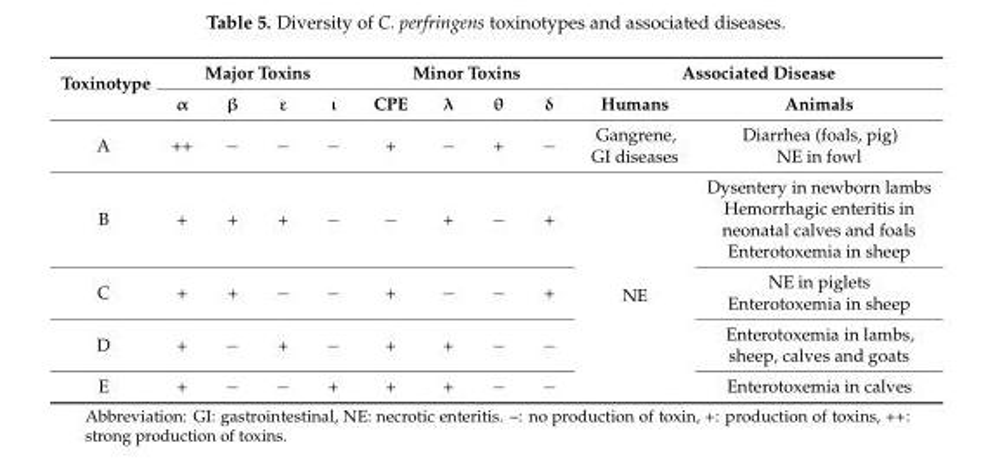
<table><thead><tr><td rowspan="2">Toxinotype</td><td colspan="4">Major Toxins</td><td colspan="4">Minor Toxins</td><td colspan="2">Associated Disease</td></tr><tr><td>α</td><td>β</td><td>ε</td><td>ι</td><td>CPE</td><td>λ</td><td>θ</td><td>δ</td><td>Humans</td><td>Animals</td></tr></thead><tbody><tr><td>A</td><td>++</td><td>−</td><td>−</td><td>−</td><td>+</td><td>−</td><td>+</td><td>−</td><td>Gangrene, GI diseases</td><td>Diarrhea (foals, pig) NE in fowl</td></tr><tr><td>B</td><td>+</td><td>+</td><td>+</td><td>−</td><td>−</td><td>+</td><td>−</td><td>+</td><td rowspan="4">NE</td><td>Dysentery in newborn lambs Hemorrhagic enteritis in neonatal calves and foals Enterotoxemia in sheep</td></tr><tr><td>C</td><td>+</td><td>+</td><td>−</td><td>−</td><td>+</td><td>−</td><td>−</td><td>+</td><td>NE in piglets Enterotoxemia in sheep</td></tr><tr><td>D</td><td>+</td><td>−</td><td>+</td><td>−</td><td>+</td><td>+</td><td>−</td><td>−</td><td>Enterotoxemia in lambs, sheep, calves and goats</td></tr><tr><td>E</td><td>+</td><td>−</td><td>−</td><td>+</td><td>+</td><td>+</td><td>−</td><td>−</td><td>Enterotoxemia in calves</td></tr></tbody></table>